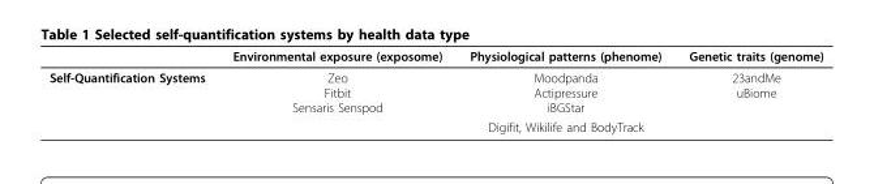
<table><thead><tr><td></td><td>Environmental exposure (exposome)</td><td>Physiological patterns (phenome)</td><td>Genetic traits (genome)</td></tr></thead><tbody><tr><td rowspan="2">Self-Quantification Systems</td><td>Zeo Fitbit Sensaris Senspod</td><td>Moodpanda Actipressure iBGStar</td><td>23andMe uBiome</td></tr><tr><td colspan="3">Digifit, Wikilife and BodyTrack</td></tr></tbody></table>